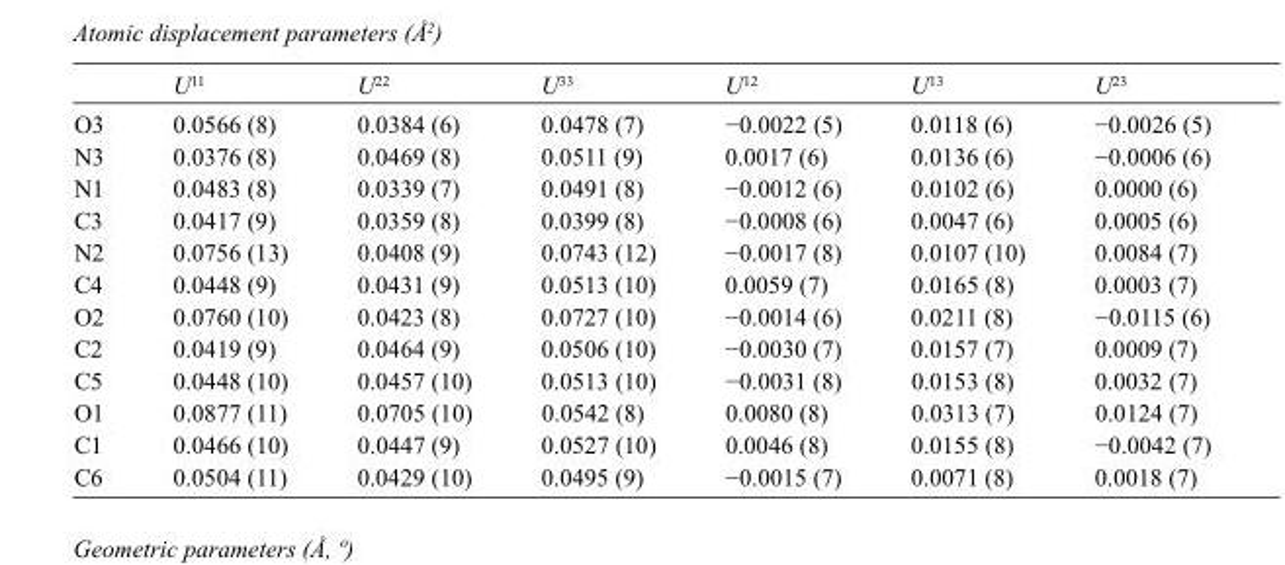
<table><thead><tr><td></td><td>U<sup>11</sup></td><td>U<sup>22</sup></td><td>U<sup>33</sup></td><td>U<sup>12</sup></td><td>U<sup>13</sup></td><td>U<sup>23</sup></td></tr></thead><tbody><tr><td>O3</td><td>0.0566 (8)</td><td>0.0384 (6)</td><td>0.0478 (7)</td><td>−0.0022 (5)</td><td>0.0118 (6)</td><td>−0.0026 (5)</td></tr><tr><td>N3</td><td>0.0376 (8)</td><td>0.0469 (8)</td><td>0.0511 (9)</td><td>0.0017 (6)</td><td>0.0136 (6)</td><td>−0.0006 (6)</td></tr><tr><td>N1</td><td>0.0483 (8)</td><td>0.0339 (7)</td><td>0.0491 (8)</td><td>−0.0012 (6)</td><td>0.0102 (6)</td><td>0.0000 (6)</td></tr><tr><td>C3</td><td>0.0417 (9)</td><td>0.0359 (8)</td><td>0.0399 (8)</td><td>−0.0008 (6)</td><td>0.0047 (6)</td><td>0.0005 (6)</td></tr><tr><td>N2</td><td>0.0756 (13)</td><td>0.0408 (9)</td><td>0.0743 (12)</td><td>−0.0017 (8)</td><td>0.0107 (10)</td><td>0.0084 (7)</td></tr><tr><td>C4</td><td>0.0448 (9)</td><td>0.0431 (9)</td><td>0.0513 (10)</td><td>0.0059 (7)</td><td>0.0165 (8)</td><td>0.0003 (7)</td></tr><tr><td>O2</td><td>0.0760 (10)</td><td>0.0423 (8)</td><td>0.0727 (10)</td><td>−0.0014 (6)</td><td>0.0211 (8)</td><td>−0.0115 (6)</td></tr><tr><td>C2</td><td>0.0419 (9)</td><td>0.0464 (9)</td><td>0.0506 (10)</td><td>−0.0030 (7)</td><td>0.0157 (7)</td><td>0.0009 (7)</td></tr><tr><td>C5</td><td>0.0448 (10)</td><td>0.0457 (10)</td><td>0.0513 (10)</td><td>−0.0031 (8)</td><td>0.0153 (8)</td><td>0.0032 (7)</td></tr><tr><td>O1</td><td>0.0877 (11)</td><td>0.0705 (10)</td><td>0.0542 (8)</td><td>0.0080 (8)</td><td>0.0313 (7)</td><td>0.0124 (7)</td></tr><tr><td>C1</td><td>0.0466 (10)</td><td>0.0447 (9)</td><td>0.0527 (10)</td><td>0.0046 (8)</td><td>0.0155 (8)</td><td>−0.0042 (7)</td></tr><tr><td>C6</td><td>0.0504 (11)</td><td>0.0429 (10)</td><td>0.0495 (9)</td><td>−0.0015 (7)</td><td>0.0071 (8)</td><td>0.0018 (7)</td></tr></tbody></table>